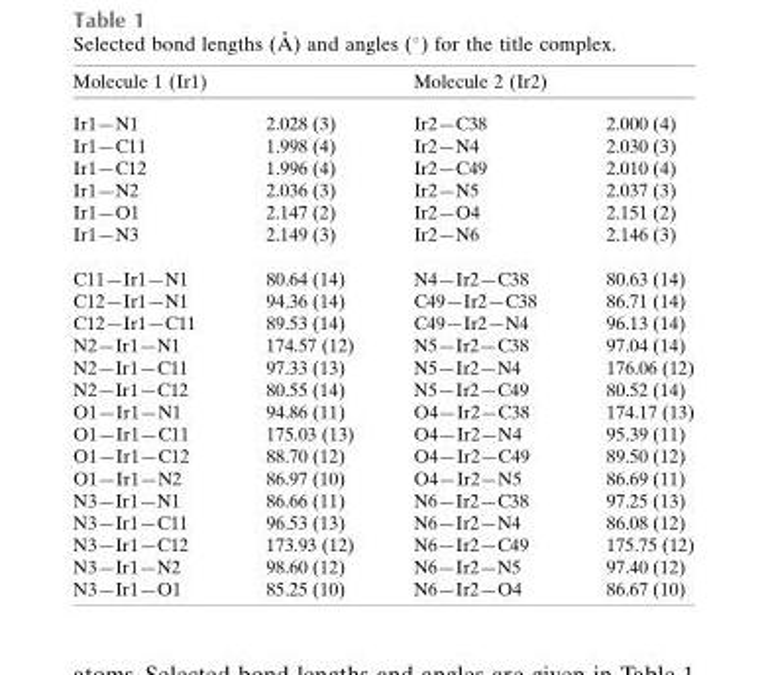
<table><thead><tr><td>Molecule 1 (Ir1)</td><td></td><td>Molecule 2 (Ir2)</td><td></td></tr></thead><tbody><tr><td>Ir1—N1</td><td>2.028 (3)</td><td>Ir2—C38</td><td>2.000 (4)</td></tr><tr><td>Ir1—C11</td><td>1.998 (4)</td><td>Ir2—N4</td><td>2.030 (3)</td></tr><tr><td>Ir1—C12</td><td>1.996 (4)</td><td>Ir2—C49</td><td>2.010 (4)</td></tr><tr><td>Ir1—N2</td><td>2.036 (3)</td><td>Ir2—N5</td><td>2.037 (3)</td></tr><tr><td>Ir1—O1</td><td>2.147 (2)</td><td>Ir2—O4</td><td>2.151 (2)</td></tr><tr><td>Ir1—N3</td><td>2.149 (3)</td><td>Ir2—N6</td><td>2.146 (3)</td></tr><tr><td>C11—Ir1—N1</td><td>80.64 (14)</td><td>N4—Ir2—C38</td><td>80.63 (14)</td></tr><tr><td>C12—Ir1—N1</td><td>94.36 (14)</td><td>C49—Ir2—C38</td><td>86.71 (14)</td></tr><tr><td>C12—Ir1—C11</td><td>89.53 (14)</td><td>C49—Ir2—N4</td><td>96.13 (14)</td></tr><tr><td>N2—Ir1—N1</td><td>174.57 (12)</td><td>N5—Ir2—C38</td><td>97.04 (14)</td></tr><tr><td>N2—Ir1—C11</td><td>97.33 (13)</td><td>N5—Ir2—N4</td><td>176.06 (12)</td></tr><tr><td>N2—Ir1—C12</td><td>80.55 (14)</td><td>N5—Ir2—C49</td><td>80.52 (14)</td></tr><tr><td>O1—Ir1—N1</td><td>94.86 (11)</td><td>O4—Ir2—C38</td><td>174.17 (13)</td></tr><tr><td>O1—Ir1—C11</td><td>175.03 (13)</td><td>O4—Ir2—N4</td><td>95.39 (11)</td></tr><tr><td>O1—Ir1—C12</td><td>88.70 (12)</td><td>O4—Ir2—C49</td><td>89.50 (12)</td></tr><tr><td>O1—Ir1—N2</td><td>86.97 (10)</td><td>O4—Ir2—N5</td><td>86.69 (11)</td></tr><tr><td>N3—Ir1—N1</td><td>86.66 (11)</td><td>N6—Ir2—C38</td><td>97.25 (13)</td></tr><tr><td>N3—Ir1—C11</td><td>96.53 (13)</td><td>N6—Ir2—N4</td><td>86.08 (12)</td></tr><tr><td>N3—Ir1—C12</td><td>173.93 (12)</td><td>N6—Ir2—C49</td><td>175.75 (12)</td></tr><tr><td>N3—Ir1—N2</td><td>98.60 (12)</td><td>N6—Ir2—N5</td><td>97.40 (12)</td></tr><tr><td>N3—Ir1—O1</td><td>85.25 (10)</td><td>N6—Ir2—O4</td><td>86.67 (10)</td></tr></tbody></table>